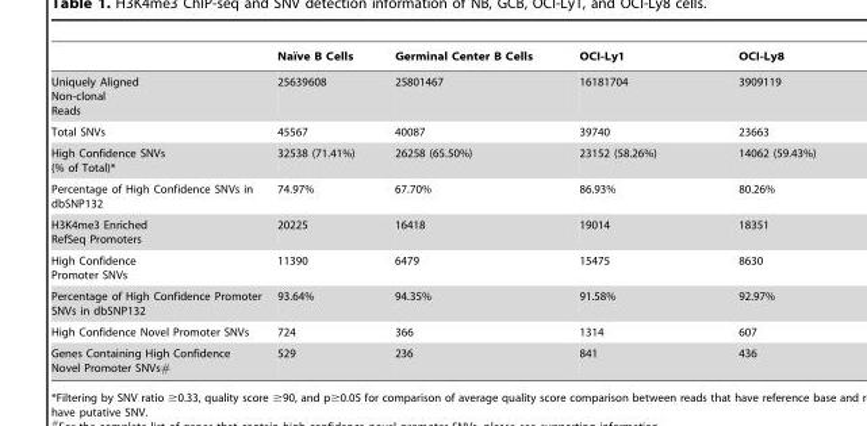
<table><thead><tr><td></td><td>Naı¨ve B Cells</td><td>Germinal Center B Cells</td><td>OCI-Ly1</td><td>OCI-Ly8</td></tr></thead><tbody><tr><td>Uniquely Aligned Non-clonal Reads</td><td>25639608</td><td>25801467</td><td>16181704</td><td>3909119</td></tr><tr><td>Total SNVs</td><td>45567</td><td>40087</td><td>39740</td><td>23663</td></tr><tr><td>High Confidence SNVs (% of Total)*</td><td>32538 (71.41%)</td><td>26258 (65.50%)</td><td>23152 (58.26%)</td><td>14062 (59.43%)</td></tr><tr><td>Percentage of High Confidence SNVs in dbSNP132</td><td>74.97%</td><td>67.70%</td><td>86.93%</td><td>80.26%</td></tr><tr><td>H3K4me3 Enriched RefSeq Promoters</td><td>20225</td><td>16418</td><td>19014</td><td>18351</td></tr><tr><td>High Confidence Promoter SNVs</td><td>11390</td><td>6479</td><td>15475</td><td>8630</td></tr><tr><td>Percentage of High Confidence Promoter SNVs in dbSNP132</td><td>93.64%</td><td>94.35%</td><td>91.58%</td><td>92.97%</td></tr><tr><td>High Confidence Novel Promoter SNVs</td><td>724</td><td>366</td><td>1314</td><td>607</td></tr><tr><td>Genes Containing High Confidence Novel Promoter SNVs#</td><td>529</td><td>236</td><td>841</td><td>436</td></tr></tbody></table>